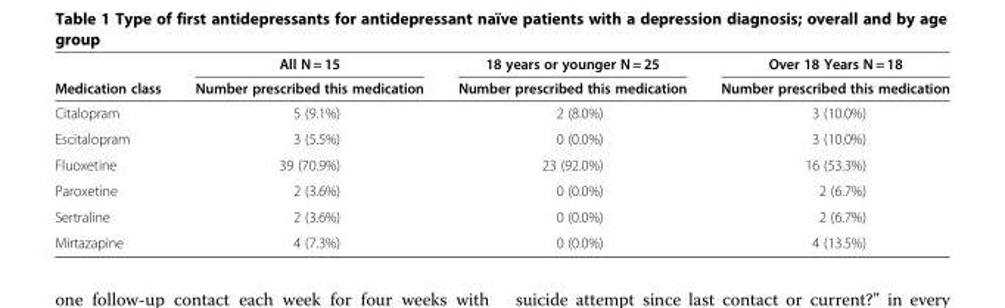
<table><thead><tr><td rowspan="2">Medication class</td><td rowspan="2">All N = 15 Number prescribed this medication</td><td rowspan="2">18 years or younger N = 25 Number prescribed this medication</td><td rowspan="2">Over 18 Years N = 18 Number prescribed this medication</td></tr><tr></tr></thead><tbody><tr><td>Citalopram</td><td>5 (9.1%)</td><td>2 (8.0%)</td><td>3 (10.0%)</td></tr><tr><td>Escitalopram</td><td>3 (5.5%)</td><td>0 (0.0%)</td><td>3 (10.0%)</td></tr><tr><td>Fluoxetine</td><td>39 (70.9%)</td><td>23 (92.0%)</td><td>16 (53.3%)</td></tr><tr><td>Paroxetine</td><td>2 (3.6%)</td><td>0 (0.0%)</td><td>2 (6.7%)</td></tr><tr><td>Sertraline</td><td>2 (3.6%)</td><td>0 (0.0%)</td><td>2 (6.7%)</td></tr><tr><td>Mirtazapine</td><td>4 (7.3%)</td><td>0 (0.0%)</td><td>4 (13.5%)</td></tr></tbody></table>